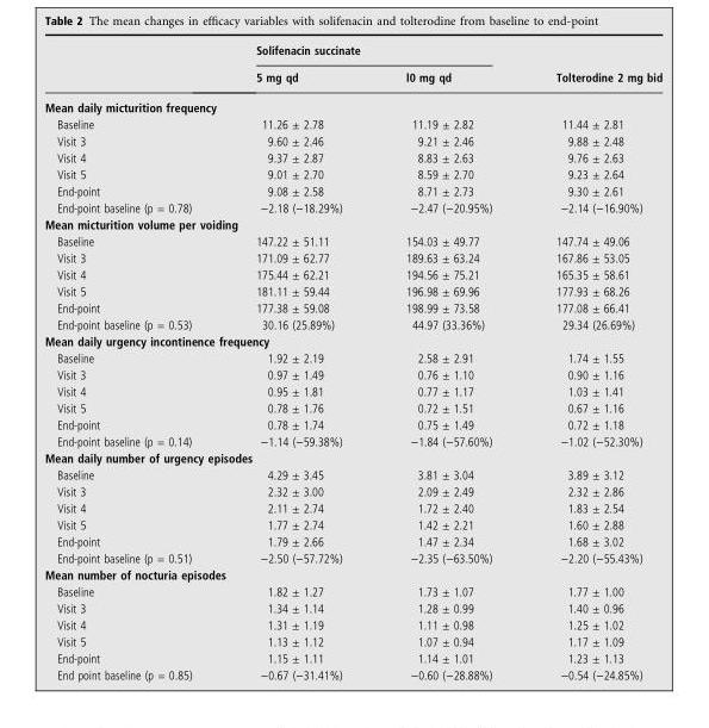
<table><thead><tr><td rowspan="2"></td><td colspan="2">Solifenacin succinate</td><td rowspan="2">Tolterodine 2 mg bid</td></tr><tr><td>5 mg qd</td><td>l0 mg qd</td></tr></thead><tbody><tr><td colspan="4">Mean daily micturition frequency</td></tr><tr><td>Baseline</td><td>11.26 ± 2.78</td><td>11.19 ± 2.82</td><td>11.44 ± 2.81</td></tr><tr><td>Visit 3</td><td>9.60 ± 2.46</td><td>9.21 ± 2.46</td><td>9.88 ± 2.48</td></tr><tr><td>Visit 4</td><td>9.37 ± 2.87</td><td>8.83 ± 2.63</td><td>9.76 ± 2.63</td></tr><tr><td>Visit 5</td><td>9.01 ± 2.70</td><td>8.59 ± 2.70</td><td>9.23 ± 2.64</td></tr><tr><td>End-point</td><td>9.08 ± 2.58</td><td>8.71 ± 2.73</td><td>9.30 ± 2.61</td></tr><tr><td>End-point baseline (p = 0.78)</td><td>−2.18 (−18.29%)</td><td>−2.47 (−20.95%)</td><td>−2.14 (−16.90%)</td></tr><tr><td colspan="4">Mean micturition volume per voiding</td></tr><tr><td>Baseline</td><td>147.22 ± 51.11</td><td>154.03 ± 49.77</td><td>147.74 ± 49.06</td></tr><tr><td>Visit 3</td><td>171.09 ± 62.77</td><td>189.63 ± 63.24</td><td>167.86 ± 53.05</td></tr><tr><td>Visit 4</td><td>175.44 ± 62.21</td><td>194.56 ± 75.21</td><td>165.35 ± 58.61</td></tr><tr><td>Visit 5</td><td>181.11 ± 59.44</td><td>196.98 ± 69.96</td><td>177.93 ± 68.26</td></tr><tr><td>End-point</td><td>177.38 ± 59.08</td><td>198.99 ± 73.58</td><td>177.08 ± 66.41</td></tr><tr><td>End-point baseline (p = 0.53)</td><td>30.16 (25.89%)</td><td>44.97 (33.36%)</td><td>29.34 (26.69%)</td></tr><tr><td colspan="4">Mean daily urgency incontinence frequency</td></tr><tr><td>Baseline</td><td>1.92 ± 2.19</td><td>2.58 ± 2.91</td><td>1.74 ± 1.55</td></tr><tr><td>Visit 3</td><td>0.97 ± 1.49</td><td>0.76 ± 1.10</td><td>0.90 ± 1.16</td></tr><tr><td>Visit 4</td><td>0.95 ± 1.81</td><td>0.77 ± 1.17</td><td>1.03 ± 1.41</td></tr><tr><td>Visit 5</td><td>0.78 ± 1.76</td><td>0.72 ± 1.51</td><td>0.67 ± 1.16</td></tr><tr><td>End-point</td><td>0.78 ± 1.74</td><td>0.75 ± 1.49</td><td>0.72 ± 1.18</td></tr><tr><td>End-point baseline (p = 0.14)</td><td>−1.14 (−59.38%)</td><td>−1.84 (−57.60%)</td><td>−1.02 (−52.30%)</td></tr><tr><td colspan="4">Mean daily number of urgency episodes</td></tr><tr><td>Baseline</td><td>4.29 ± 3.45</td><td>3.81 ± 3.04</td><td>3.89 ± 3.12</td></tr><tr><td>Visit 3</td><td>2.32 ± 3.00</td><td>2.09 ± 2.49</td><td>2.32 ± 2.86</td></tr><tr><td>Visit 4</td><td>2.11 ± 2.74</td><td>1.72 ± 2.40</td><td>1.83 ± 2.54</td></tr><tr><td>Visit 5</td><td>1.77 ± 2.74</td><td>1.42 ± 2.21</td><td>1.60 ± 2.88</td></tr><tr><td>End-point</td><td>1.79 ± 2.66</td><td>1.47 ± 2.34</td><td>1.68 ± 3.02</td></tr><tr><td>End-point baseline (p = 0.51)</td><td>−2.50 (−57.72%)</td><td>−2.35 (−63.50%)</td><td>−2.20 (−55.43%)</td></tr><tr><td colspan="4">Mean number of nocturia episodes</td></tr><tr><td>Baseline</td><td>1.82 ± 1.27</td><td>1.73 ± 1.07</td><td>1.77 ± 1.00</td></tr><tr><td>Visit 3</td><td>1.34 ± 1.14</td><td>1.28 ± 0.99</td><td>1.40 ± 0.96</td></tr><tr><td>Visit 4</td><td>1.31 ± 1.19</td><td>1.11 ± 0.98</td><td>1.25 ± 1.02</td></tr><tr><td>Visit 5</td><td>1.13 ± 1.12</td><td>1.07 ± 0.94</td><td>1.17 ± 1.09</td></tr><tr><td>End-point</td><td>1.15 ± 1.11</td><td>1.14 ± 1.01</td><td>1.23 ± 1.13</td></tr><tr><td>End point baseline (p = 0.85)</td><td>−0.67 (−31.41%)</td><td>−0.60 (−28.88%)</td><td>−0.54 (−24.85%)</td></tr></tbody></table>